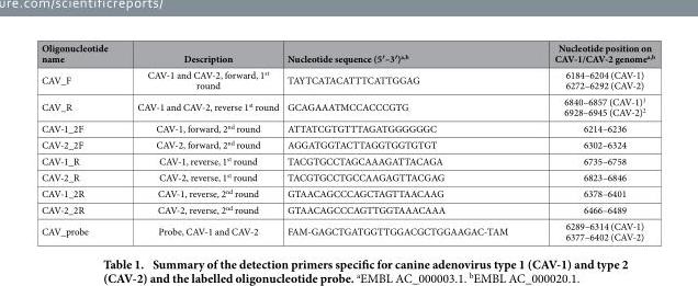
<table><thead><tr><td>Oligonucleotide name</td><td>Description</td><td>Nucleotide sequence (5′–3′)a,<sup>b</sup></td><td>Nucleotide position on CAV-1/CAV-2 genome<sup>a</sup>,<sup>b</sup></td></tr></thead><tbody><tr><td>CAV_F</td><td>CAV-1 and CAV-2, forward, 1<sup>st</sup> round</td><td>TAYTCATACATTTCATTGGAG</td><td>6184–6204 (CAV-1) 6272–6292 (CAV-2)</td></tr><tr><td>CAV_R</td><td>CAV-1 and CAV-2, reverse 1<sup>st</sup> round</td><td>GCAGAAATMCCACCCGTG</td><td>6840–6857 (CAV-1)<sup>1</sup> 6928–6945 (CAV-2)<sup>2</sup></td></tr><tr><td>CAV-1_2F</td><td>CAV-1, forward, 2<sup>nd</sup> round</td><td>ATTATCGTGTTTAGATGGGGGGC</td><td>6214–6236</td></tr><tr><td>CAV-2_2F</td><td>CAV-2, forward, 2<sup>nd</sup> round</td><td>AGGATGGTACTTAGGTGGTGTGT</td><td>6302–6324</td></tr><tr><td>CAV-1_R</td><td>CAV-1, reverse, 1<sup>st</sup> round</td><td>TACGTGCCTAGCAAAGATTACAGA</td><td>6735–6758</td></tr><tr><td>CAV-2_R</td><td>CAV-2, reverse, 1<sup>st</sup> round</td><td>TACGTGCCTGCCAAGAGTTACGAG</td><td>6823–6846</td></tr><tr><td>CAV-1_2R</td><td>CAV-1, reverse, 2<sup>nd</sup> round</td><td>GTAACAGCCCAGCTAGTTAACAAG</td><td>6378–6401</td></tr><tr><td>CAV-2_2R</td><td>CAV-2, reverse, 2<sup>nd</sup> round</td><td>GTAACAGCCCAGTTGGTAAACAAA</td><td>6466–6489</td></tr><tr><td>CAV_probe</td><td>Probe, CAV-1 and CAV-2</td><td>FAM-GAGCTGATGGTTGGACGCTGGAAGAC-TAM</td><td>6289–6314 (CAV-1) 6377–6402 (CAV-2)</td></tr></tbody></table>